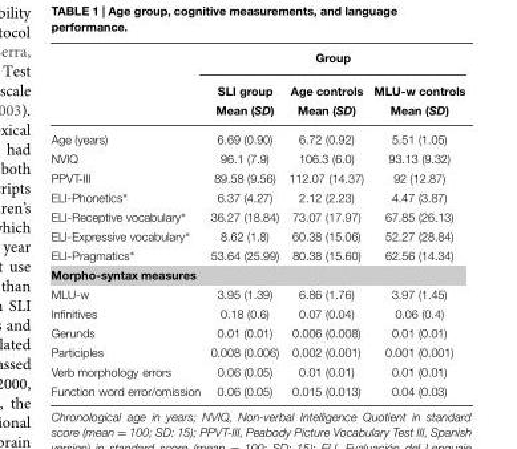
<table><thead><tr><td rowspan="3"></td><td colspan="3">Group</td></tr><tr><td rowspan="2">SLI group Mean (SD)</td><td rowspan="2">Age controls Mean (SD)</td><td rowspan="2">MLU-w controls Mean (SD)</td></tr><tr></tr></thead><tbody><tr><td>Age (years)</td><td>6.69 (0.90)</td><td>6.72 (0.92)</td><td>5.51 (1.05)</td></tr><tr><td>NVIQ</td><td>96.1 (7.9)</td><td>106.3 (6.0)</td><td>93.13 (9.32)</td></tr><tr><td>PPVT-III</td><td>89.58 (9.56)</td><td>112.07 (14.37)</td><td>92 (12.87)</td></tr><tr><td>ELI-Phonetics∗</td><td>6.37 (4.27)</td><td>2.12 (2.23)</td><td>4.47 (3.87)</td></tr><tr><td>ELI-Receptive vocabulary∗</td><td>36.27 (18.84)</td><td>73.07 (17.97)</td><td>67.85 (26.13)</td></tr><tr><td>ELI-Expressive vocabulary∗</td><td>8.62 (1.8)</td><td>60.38 (15.06)</td><td>52.27 (28.84)</td></tr><tr><td>ELI-Pragmatics∗</td><td>53.64 (25.99)</td><td>80.38 (15.60)</td><td>62.56 (14.34)</td></tr><tr><td colspan="4">Morpho-syntax measures</td></tr><tr><td>MLU-w</td><td>3.95 (1.39)</td><td>6.86 (1.76)</td><td>3.97 (1.45)</td></tr><tr><td>Infinitives</td><td>0.18 (0.6)</td><td>0.07 (0.04)</td><td>0.06 (0.4)</td></tr><tr><td>Gerunds</td><td>0.01 (0.01)</td><td>0.006 (0.008)</td><td>0.01 (0.01)</td></tr><tr><td>Participles</td><td>0.008 (0.006)</td><td>0.002 (0.001)</td><td>0.001 (0.001)</td></tr><tr><td>Verb morphology errors</td><td>0.06 (0.05)</td><td>0.01 (0.01)</td><td>0.01 (0.01)</td></tr><tr><td>Function word error/omission</td><td>0.06 (0.05)</td><td>0.015 (0.013)</td><td>0.04 (0.03)</td></tr></tbody></table>